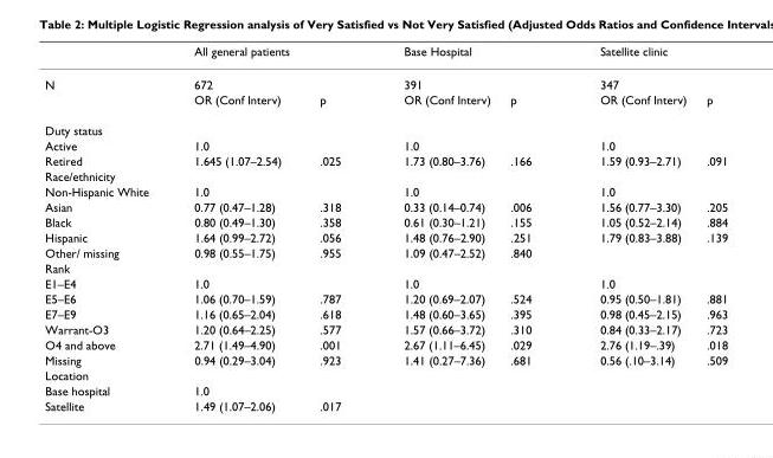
<table><thead><tr><td></td><td>All general patients</td><td></td><td>Base Hospital</td><td></td><td>Satellite clinic</td><td></td></tr></thead><tbody><tr><td rowspan="2">N</td><td>672</td><td></td><td>391</td><td></td><td>347</td><td></td></tr><tr><td>OR (Conf Interv)</td><td>p</td><td>OR (Conf Interv)</td><td>p</td><td>OR (Conf Interv)</td><td>p</td></tr><tr><td colspan="7">Duty status</td></tr><tr><td>Active</td><td>1.0</td><td></td><td>1.0</td><td></td><td>1.0</td><td></td></tr><tr><td>Retired</td><td>1.645 (1.07–2.54)</td><td>.025</td><td>1.73 (0.80–3.76)</td><td>.166</td><td>1.59 (0.93–2.71)</td><td>.091</td></tr><tr><td colspan="7">Race/ethnicity</td></tr><tr><td>Non-Hispanic White</td><td>1.0</td><td></td><td>1.0</td><td></td><td>1.0</td><td></td></tr><tr><td>Asian</td><td>0.77 (0.47–1.28)</td><td>.318</td><td>0.33 (0.14–0.74)</td><td>.006</td><td>1.56 (0.77–3.30)</td><td>.205</td></tr><tr><td>Black</td><td>0.80 (0.49–1.30)</td><td>.358</td><td>0.61 (0.30–1.21)</td><td>.155</td><td>1.05 (0.52–2.14)</td><td>.884</td></tr><tr><td>Hispanic</td><td>1.64 (0.99–2.72)</td><td>.056</td><td>1.48 (0.76–2.90)</td><td>.251</td><td>1.79 (0.83–3.88)</td><td>.139</td></tr><tr><td>Other/ missing</td><td>0.98 (0.55–1.75)</td><td>.955</td><td>1.09 (0.47–2.52)</td><td>.840</td><td></td><td></td></tr><tr><td colspan="7">Rank</td></tr><tr><td>E1–E4</td><td>1.0</td><td></td><td>1.0</td><td></td><td>1.0</td><td></td></tr><tr><td>E5–E6</td><td>1.06 (0.70–1.59)</td><td>.787</td><td>1.20 (0.69–2.07)</td><td>.524</td><td>0.95 (0.50–1.81)</td><td>.881</td></tr><tr><td>E7–E9</td><td>1.16 (0.65–2.04)</td><td>.618</td><td>1.48 (0.60–3.65)</td><td>.395</td><td>0.98 (0.45–2.15)</td><td>.963</td></tr><tr><td>Warrant-O3</td><td>1.20 (0.64–2.25)</td><td>.577</td><td>1.57 (0.66–3.72)</td><td>.310</td><td>0.84 (0.33–2.17)</td><td>.723</td></tr><tr><td>O4 and above</td><td>2.71 (1.49–4.90)</td><td>.001</td><td>2.67 (1.11–6.45)</td><td>.029</td><td>2.76 (1.19–.39)</td><td>.018</td></tr><tr><td>Missing</td><td>0.94 (0.29–3.04)</td><td>.923</td><td>1.41 (0.27–7.36)</td><td>.681</td><td>0.56 (.10–3.14)</td><td>.509</td></tr><tr><td colspan="7">Location</td></tr><tr><td>Base hospital</td><td>1.0</td><td></td><td></td><td></td><td></td><td></td></tr><tr><td>Satellite</td><td>1.49 (1.07–2.06)</td><td>.017</td><td></td><td></td><td></td><td></td></tr></tbody></table>